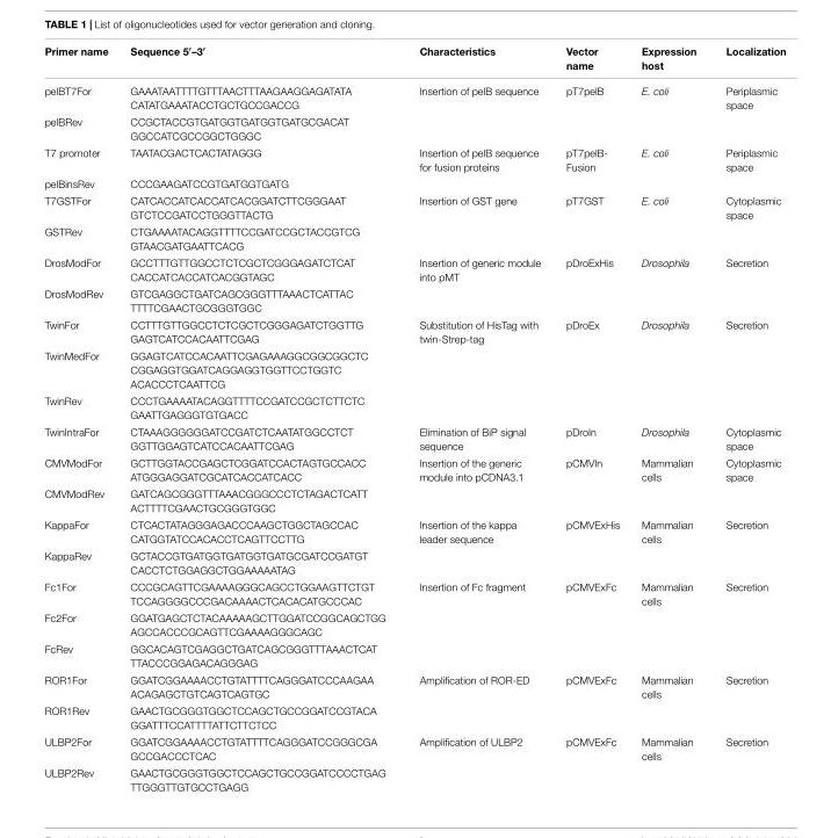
<table><thead><tr><td>Primer name</td><td>Sequence 5′–3′</td><td>Characteristics</td><td>Vector name</td><td>Expression host</td><td>Localization</td></tr></thead><tbody><tr><td>pelBT7For</td><td>GAAATAATTTTGTTTAACTTTAAGAAGGAGATATA CATATGAAATACCTGCTGCCGACCG</td><td>Insertion of pelB sequence</td><td>pT7pelB</td><td>E. coli</td><td>Periplasmic space</td></tr><tr><td>pelBRev</td><td>CCGCTACCGTGATGGTGATGGTGATGCGACAT GGCCATCGCCGGCTGGGC</td><td></td><td></td><td></td><td></td></tr><tr><td>T7 promoter</td><td>TAATACGACTCACTATAGGG</td><td>Insertion of pelB sequence for fusion proteins</td><td>pT7pelB- Fusion</td><td>E. coli</td><td>Periplasmic space</td></tr><tr><td>pelBinsRev</td><td>CCCGAAGATCCGTGATGGTGATG</td><td></td><td></td><td></td><td></td></tr><tr><td>T7GSTFor</td><td>CATCACCATCACCATCACGGATCTTCGGGAAT GTCTCCGATCCTGGGTTACTG</td><td>Insertion of GST gene</td><td>pT7GST</td><td>E. coli</td><td>Cytoplasmic space</td></tr><tr><td>GSTRev</td><td>CTGAAAATACAGGTTTTCCGATCCGCTACCGTCG GTAACGATGAATTCACG</td><td></td><td></td><td></td><td></td></tr><tr><td>DrosModFor</td><td>GCCTTTGTTGGCCTCTCGCTCGGGAGATCTCAT CACCATCACCATCACGGTAGC</td><td>Insertion of generic module into pMT</td><td>pDroExHis</td><td>Drosophila</td><td>Secretion</td></tr><tr><td>DrosModRev</td><td>GTCGAGGCTGATCAGCGGGTTTAAACTCATTAC TTTTCGAACTGCGGGTGGC</td><td></td><td></td><td></td><td></td></tr><tr><td>TwinFor</td><td>CCTTTGTTGGCCTCTCGCTCGGGAGATCTGGTTG GAGTCATCCACAATTCGAG</td><td>Substitution of HisTag with twin-Strep-tag</td><td>pDroEx</td><td>Drosophila</td><td>Secretion</td></tr><tr><td>TwinMedFor</td><td>GGAGTCATCCACAATTCGAGAAAGGCGGCGGCTC CGGAGGTGGATCAGGAGGTGGTTCCTGGTC ACACCCTCAATTCG</td><td></td><td></td><td></td><td></td></tr><tr><td>TwinRev</td><td>CCCTGAAAATACAGGTTTTCCGATCCGCTCTTCTC GAATTGAGGGTGTGACC</td><td></td><td></td><td></td><td></td></tr><tr><td>TwinIntraFor</td><td>CTAAAGGGGGGATCCGATCTCAATATGGCCTCT GGTTGGAGTCATCCACAATTCGAG</td><td>Elimination of BiP signal sequence</td><td>pDroIn</td><td>Drosophila</td><td>Cytoplasmic space</td></tr><tr><td>CMVModFor</td><td>GCTTGGTACCGAGCTCGGATCCACTAGTGCCACC ATGGGAGGATCGCATCACCATCACC</td><td>Insertion of the generic module into pCDNA3.1</td><td>pCMVIn</td><td>Mammalian cells</td><td>Cytoplasmic space</td></tr><tr><td>CMVModRev</td><td>GATCAGCGGGTTTAAACGGGCCCTCTAGACTCATT ACTTTTCGAACTGCGGGTGGC</td><td></td><td></td><td></td><td></td></tr><tr><td>KappaFor</td><td>CTCACTATAGGGAGACCCAAGCTGGCTAGCCAC CATGGTATCCACACCTCAGTTCCTTG</td><td>Insertion of the kappa leader sequence</td><td>pCMVExHis</td><td>Mammalian cells</td><td>Secretion</td></tr><tr><td>KappaRev</td><td>GCTACCGTGATGGTGATGGTGATGCGATCCGATGT CACCTCTGGAGGCTGGAAAAATAG</td><td></td><td></td><td></td><td></td></tr><tr><td>Fc1For</td><td>CCCGCAGTTCGAAAAGGGCAGCCTGGAAGTTCTGT TCCAGGGGCCCGACAAAACTCACACATGCCCAC</td><td>Insertion of Fc fragment</td><td>pCMVExFc</td><td>Mammalian cells</td><td>Secretion</td></tr><tr><td>Fc2For</td><td>GGATGAGCTCTACAAAAAGCTTGGATCCGGCAGCTGG AGCCACCCGCAGTTCGAAAAGGGCAGC</td><td></td><td></td><td></td><td></td></tr><tr><td>FcRev</td><td>GGCACAGTCGAGGCTGATCAGCGGGTTTAAACTCAT TTACCCGGAGACAGGGAG</td><td></td><td></td><td></td><td></td></tr><tr><td>ROR1For</td><td>GGATCGGAAAACCTGTATTTTCAGGGATCCCAAGAA ACAGAGCTGTCAGTCAGTGC</td><td>Amplification of ROR-ED</td><td>pCMVExFc</td><td>Mammalian cells</td><td>Secretion</td></tr><tr><td>ROR1Rev</td><td>GAACTGCGGGTGGCTCCAGCTGCCGGATCCGTACA GGATTTCCATTTTATTCTTCTCC</td><td></td><td></td><td></td><td></td></tr><tr><td>ULBP2For</td><td>GGATCGGAAAACCTGTATTTTCAGGGATCCGGGCGA GCCGACCCTCAC</td><td>Amplification of ULBP2</td><td>pCMVExFc</td><td>Mammalian cells</td><td>Secretion</td></tr><tr><td>ULBP2Rev</td><td>GAACTGCGGGTGGCTCCAGCTGCCGGATCCCCTGAG TTGGGTTGTGCCTGAGG</td><td></td><td></td><td></td><td></td></tr></tbody></table>